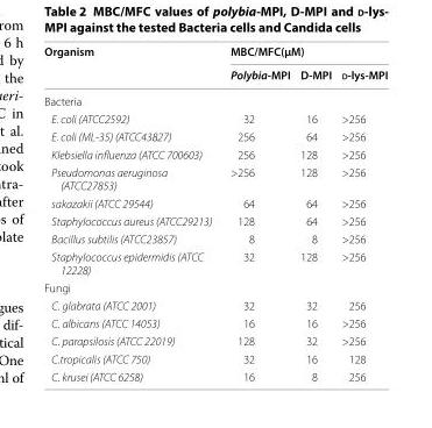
<table><thead><tr><td rowspan="2">Organism</td><td colspan="3">MBC/MFC(µM)</td></tr><tr><td>Polybia‑MPI</td><td>D‑MPI</td><td>d‑lys‑MPI</td></tr></thead><tbody><tr><td colspan="4">Bacteria</td></tr><tr><td>E. coli (ATCC2592)</td><td>32</td><td>16</td><td>&gt;256</td></tr><tr><td>E. coli (ML-35) (ATCC43827)</td><td>256</td><td>64</td><td>&gt;256</td></tr><tr><td>Klebsiella influenza (ATCC 700603)</td><td>256</td><td>128</td><td>&gt;256</td></tr><tr><td>Pseudomonas aeruginosa (ATCC27853)</td><td>&gt;256</td><td>128</td><td>&gt;256</td></tr><tr><td>sakazakii (ATCC 29544)</td><td>64</td><td>64</td><td>&gt;256</td></tr><tr><td>Staphylococcus aureus (ATCC29213)</td><td>128</td><td>64</td><td>&gt;256</td></tr><tr><td>Bacillus subtilis (ATCC23857)</td><td>8</td><td>8</td><td>&gt;256</td></tr><tr><td>Staphylococcus epidermidis (ATCC 12228)</td><td>32</td><td>128</td><td>&gt;256</td></tr><tr><td colspan="4">Fungi</td></tr><tr><td>C. glabrata (ATCC 2001)</td><td>32</td><td>32</td><td>256</td></tr><tr><td>C. albicans (ATCC 14053)</td><td>16</td><td>16</td><td>&gt;256</td></tr><tr><td>C. parapsilosis (ATCC 22019)</td><td>128</td><td>32</td><td>&gt;256</td></tr><tr><td>C.tropicalis (ATCC 750)</td><td>32</td><td>16</td><td>128</td></tr><tr><td>C. krusei (ATCC 6258)</td><td>16</td><td>8</td><td>256</td></tr></tbody></table>